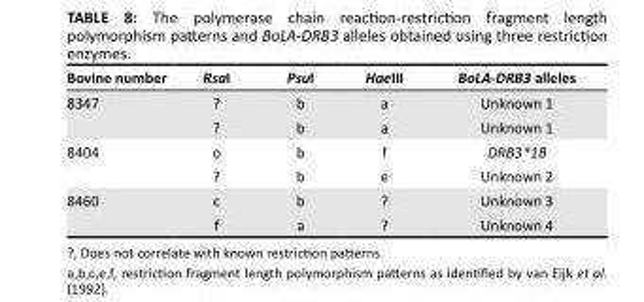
<table><thead><tr><td>Bovine number</td><td>RsaI</td><td>PsuI</td><td>HaeIII</td><td>BoLA-DRB3 alleles</td></tr></thead><tbody><tr><td rowspan="2">8347</td><td>?</td><td>b</td><td>a</td><td>Unknown 1</td></tr><tr><td>?</td><td>b</td><td>a</td><td>Unknown 1</td></tr><tr><td rowspan="2">8404</td><td>o</td><td>b</td><td>f</td><td>DRB3*1B</td></tr><tr><td>?</td><td>b</td><td>e</td><td>Unknown 2</td></tr><tr><td rowspan="2">8460</td><td>c</td><td>b</td><td>?</td><td>Unknown 3</td></tr><tr><td>f</td><td>a</td><td>?</td><td>Unknown 4</td></tr></tbody></table>